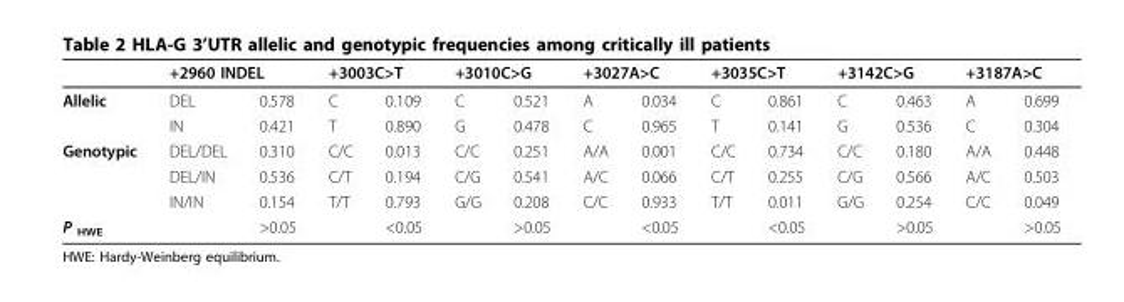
<table><thead><tr><td rowspan="2">Allelic</td><td colspan="2">+2960 INDEL</td><td colspan="2">+3003C&gt;T</td><td colspan="2">+3010C&gt;G</td><td colspan="2">+3027A&gt;C</td><td colspan="2">+3035C&gt;T</td><td colspan="2">+3142C&gt;G</td><td colspan="2">+3187A&gt;C</td></tr><tr><td>DEL</td><td>0.578</td><td>C</td><td>0.109</td><td>C</td><td>0.521</td><td>A</td><td>0.034</td><td>C</td><td>0.861</td><td>C</td><td>0.463</td><td>A</td><td>0.699</td></tr></thead><tbody><tr><td></td><td>IN</td><td>0.421</td><td>T</td><td>0.890</td><td>G</td><td>0.478</td><td>C</td><td>0.965</td><td>T</td><td>0.141</td><td>G</td><td>0.536</td><td>C</td><td>0.304</td></tr><tr><td rowspan="3">Genotypic</td><td>DEL/DEL</td><td>0.310</td><td>C/C</td><td>0.013</td><td>C/C</td><td>0.251</td><td>A/A</td><td>0.001</td><td>C/C</td><td>0.734</td><td>C/C</td><td>0.180</td><td>A/A</td><td>0.448</td></tr><tr><td>DEL/IN</td><td>0.536</td><td>C/T</td><td>0.194</td><td>C/G</td><td>0.541</td><td>A/C</td><td>0.066</td><td>C/T</td><td>0.255</td><td>C/G</td><td>0.566</td><td>A/C</td><td>0.503</td></tr><tr><td>IN/IN</td><td>0.154</td><td>T/T</td><td>0.793</td><td>G/G</td><td>0.208</td><td>C/C</td><td>0.933</td><td>T/T</td><td>0.011</td><td>G/G</td><td>0.254</td><td>C/C</td><td>0.049</td></tr><tr><td>P <sub>HWE</sub></td><td></td><td>&gt;0.05</td><td></td><td>&lt;0.05</td><td></td><td>&gt;0.05</td><td></td><td>&lt;0.05</td><td></td><td>&lt;0.05</td><td></td><td>&gt;0.05</td><td></td><td>&gt;0.05</td></tr></tbody></table>